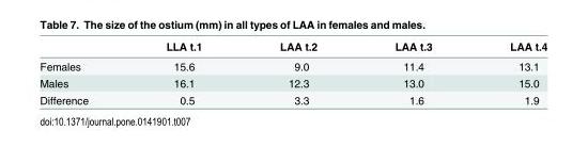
<table><thead><tr><td></td><td>LLA t.1</td><td>LAA t.2</td><td>LAA t.3</td><td>LAA t.4</td></tr></thead><tbody><tr><td>Females</td><td>15.6</td><td>9.0</td><td>11.4</td><td>13.1</td></tr><tr><td>Males</td><td>16.1</td><td>12.3</td><td>13.0</td><td>15.0</td></tr><tr><td>Difference</td><td>0.5</td><td>3.3</td><td>1.6</td><td>1.9</td></tr></tbody></table>